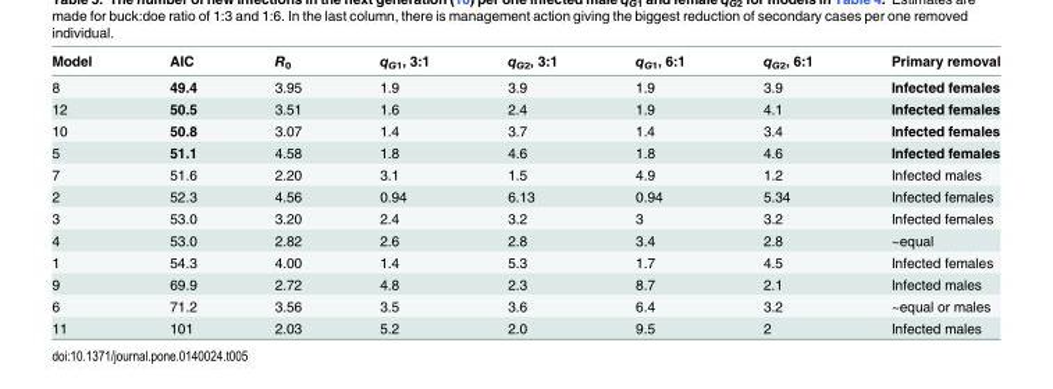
<table><thead><tr><td>Model</td><td>AIC</td><td>R<sub>0</sub></td><td>q<sub>G1</sub>, 3:1</td><td>q<sub>G2</sub>, 3:1</td><td>q<sub>G1</sub>, 6:1</td><td>q<sub>G2</sub>, 6:1</td><td>Primary removal</td></tr></thead><tbody><tr><td>8</td><td>49.4</td><td>3.95</td><td>1.9</td><td>3.9</td><td>1.9</td><td>3.9</td><td>Infected females</td></tr><tr><td>12</td><td>50.5</td><td>3.51</td><td>1.6</td><td>2.4</td><td>1.9</td><td>4.1</td><td>Infected females</td></tr><tr><td>10</td><td>50.8</td><td>3.07</td><td>1.4</td><td>3.7</td><td>1.4</td><td>3.4</td><td>Infected females</td></tr><tr><td>5</td><td>51.1</td><td>4.58</td><td>1.8</td><td>4.6</td><td>1.8</td><td>4.6</td><td>Infected females</td></tr><tr><td>7</td><td>51.6</td><td>2.20</td><td>3.1</td><td>1.5</td><td>4.9</td><td>1.2</td><td>Infected males</td></tr><tr><td>2</td><td>52.3</td><td>4.56</td><td>0.94</td><td>6.13</td><td>0.94</td><td>5.34</td><td>Infected females</td></tr><tr><td>3</td><td>53.0</td><td>3.20</td><td>2.4</td><td>3.2</td><td>3</td><td>3.2</td><td>Infected females</td></tr><tr><td>4</td><td>53.0</td><td>2.82</td><td>2.6</td><td>2.8</td><td>3.4</td><td>2.8</td><td>~equal</td></tr><tr><td>1</td><td>54.3</td><td>4.00</td><td>1.4</td><td>5.3</td><td>1.7</td><td>4.5</td><td>Infected females</td></tr><tr><td>9</td><td>69.9</td><td>2.72</td><td>4.8</td><td>2.3</td><td>8.7</td><td>2.1</td><td>Infected males</td></tr><tr><td>6</td><td>71.2</td><td>3.56</td><td>3.5</td><td>3.6</td><td>6.4</td><td>3.2</td><td>~equal or males</td></tr><tr><td>11</td><td>101</td><td>2.03</td><td>5.2</td><td>2.0</td><td>9.5</td><td>2</td><td>Infected males</td></tr></tbody></table>